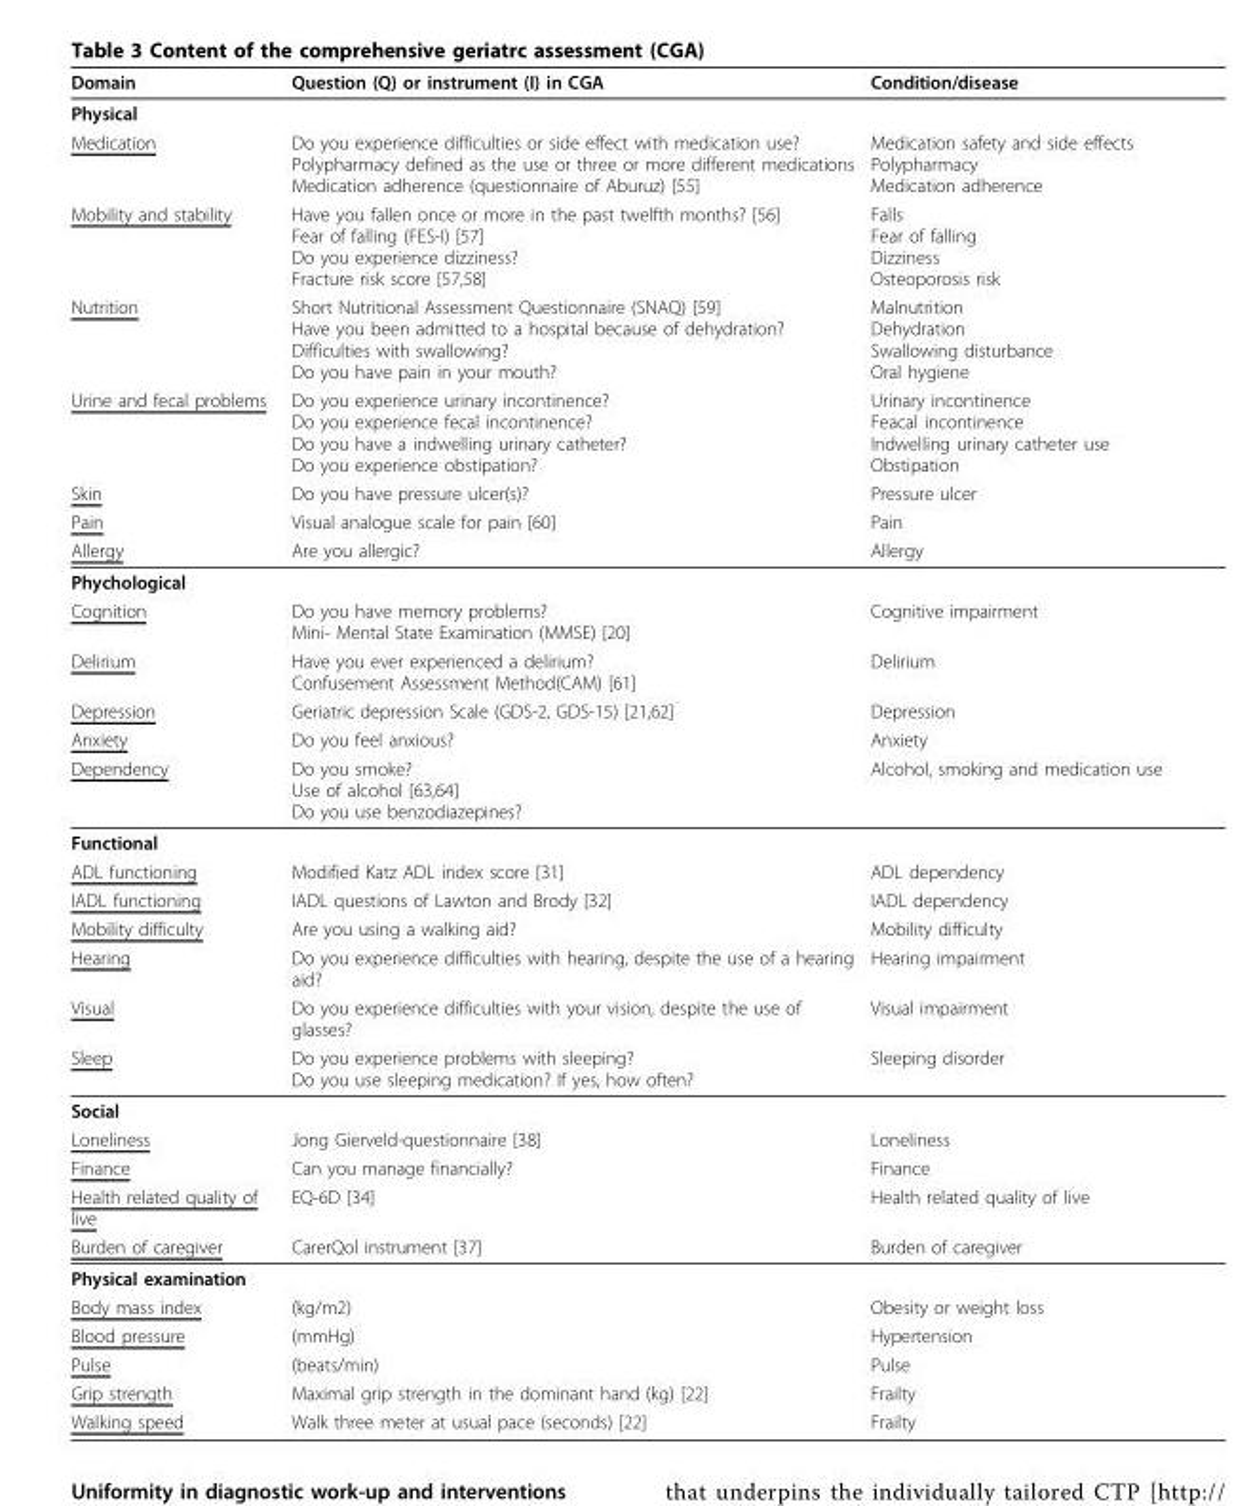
<table><thead><tr><td>Domain</td><td>Question (Q) or instrument (I) in CGA</td><td>Condition/disease</td></tr></thead><tbody><tr><td colspan="3">Physical</td></tr><tr><td>Medication</td><td>Do you experience difficulties or side effect with medication use? Polypharmacy defined as the use or three or more different medications Medication adherence (questionnaire of Aburuz) [55]</td><td>Medication safety and side effects Polypharmacy Medication adherence</td></tr><tr><td>Mobility and stability</td><td>Have you fallen once or more in the past twelfth months? [56] Fear of falling (FES-I) [57] Do you experience dizziness? Fracture risk score [57,58]</td><td>Falls Fear of falling Dizziness Osteoporosis risk</td></tr><tr><td>Nutrition</td><td>Short Nutritional Assessment Questionnaire (SNAQ) [59] Have you been admitted to a hospital because of dehydration? Difficulties with swallowing? Do you have pain in your mouth?</td><td>Malnutrition Dehydration Swallowing disturbance Oral hygiene</td></tr><tr><td>Urine and fecal problems</td><td>Do you experience urinary incontinence? Do you experience fecal incontinence? Do you have a indwelling urinary catheter? Do you experience obstipation?</td><td>Urinary incontinence Feacal incontinence Indwelling urinary catheter use Obstipation</td></tr><tr><td>Skin</td><td>Do you have pressure ulcer(s)?</td><td>Pressure ulcer</td></tr><tr><td>Pain</td><td>Visual analogue scale for pain [60]</td><td>Pain</td></tr><tr><td>Allergy</td><td>Are you allergic?</td><td>Allergy</td></tr><tr><td colspan="3">Phychological</td></tr><tr><td>Cognition</td><td>Do you have memory problems? Mini- Mental State Examination (MMSE) [20]</td><td>Cognitive impairment</td></tr><tr><td>Delirium</td><td>Have you ever experienced a delirium? Confusement Assessment Method(CAM) [61]</td><td>Delirium</td></tr><tr><td>Depression</td><td>Geriatric depression Scale (GDS-2, GDS-15) [21,62]</td><td>Depression</td></tr><tr><td>Anxiety</td><td>Do you feel anxious?</td><td>Anxiety</td></tr><tr><td>Dependency</td><td>Do you smoke? Use of alcohol [63,64] Do you use benzodiazepines?</td><td>Alcohol, smoking and medication use</td></tr><tr><td colspan="3">Functional</td></tr><tr><td>ADL functioning</td><td>Modified Katz ADL index score [31]</td><td>ADL dependency</td></tr><tr><td>IADL functioning</td><td>IADL questions of Lawton and Brody [32]</td><td>IADL dependency</td></tr><tr><td>Mobility difficulty</td><td>Are you using a walking aid?</td><td>Mobility difficulty</td></tr><tr><td>Hearing</td><td>Do you experience difficulties with hearing, despite the use of a hearing aid?</td><td>Hearing impairment</td></tr><tr><td>Visual</td><td>Do you experience difficulties with your vision, despite the use of glasses?</td><td>Visual impairment</td></tr><tr><td>Sleep</td><td>Do you experience problems with sleeping? Do you use sleeping medication? If yes, how often?</td><td>Sleeping disorder</td></tr><tr><td colspan="3">Social</td></tr><tr><td>Loneliness</td><td>Jong Gierveld-questionnaire [38]</td><td>Loneliness</td></tr><tr><td>Finance</td><td>Can you manage financially?</td><td>Finance</td></tr><tr><td>Health related quality of live</td><td>EQ-6D [34]</td><td>Health related quality of live</td></tr><tr><td>Burden of caregiver</td><td>CarerQol instrument [37]</td><td>Burden of caregiver</td></tr><tr><td colspan="3">Physical examination</td></tr><tr><td>Body mass index</td><td>(kg/m2)</td><td>Obesity or weight loss</td></tr><tr><td>Blood pressure</td><td>(mmHg)</td><td>Hypertension</td></tr><tr><td>Pulse</td><td>(beats/min)</td><td>Pulse</td></tr><tr><td>Grip strength</td><td>Maximal grip strength in the dominant hand (kg) [22]</td><td>Frailty</td></tr><tr><td>Walking speed</td><td>Walk three meter at usual pace (seconds) [22]</td><td>Frailty</td></tr></tbody></table>